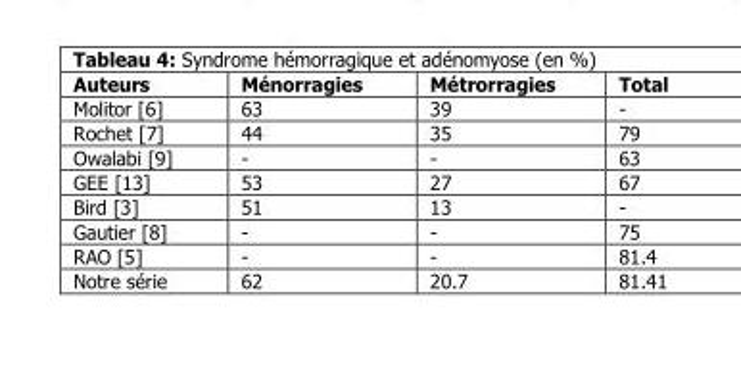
<table><thead><tr><td>Auteurs</td><td>Ménorragies</td><td>Métrorragies</td><td>Total</td></tr></thead><tbody><tr><td>Molitor [6]</td><td>63</td><td>39</td><td>-</td></tr><tr><td>Rochet [7]</td><td>44</td><td>35</td><td>79</td></tr><tr><td>Owalabi [9]</td><td>-</td><td>-</td><td>63</td></tr><tr><td>GEE [13]</td><td>53</td><td>27</td><td>67</td></tr><tr><td>Bird [3]</td><td>51</td><td>13</td><td>-</td></tr><tr><td>Gautier [8]</td><td>-</td><td>-</td><td>75</td></tr><tr><td>RAO [5]</td><td>-</td><td>-</td><td>81.4</td></tr><tr><td>Notre série</td><td>62</td><td>20.7</td><td>81.41</td></tr></tbody></table>